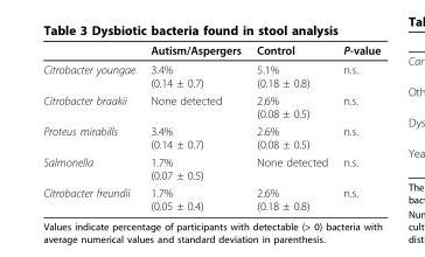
<table><thead><tr><td></td><td>Autism/Aspergers</td><td>Control</td><td>P-value</td></tr></thead><tbody><tr><td>Citrobacter youngae</td><td>3.4% (0.14 ± 0.7)</td><td>5.1% (0.18 ± 0.8)</td><td>n.s.</td></tr><tr><td>Citrobacter braakii</td><td>None detected</td><td>2.6% (0.08 ± 0.5)</td><td>n.s.</td></tr><tr><td>Proteus mirabills</td><td>3.4% (0.14 ± 0.7)</td><td>2.6% (0.08 ± 0.5)</td><td>n.s.</td></tr><tr><td>Salmonella</td><td>1.7% (0.07 ± 0.5)</td><td>None detected</td><td>n.s.</td></tr><tr><td>Citrobacter freundii</td><td>1.7% (0.05 ± 0.4)</td><td>2.6% (0.18 ± 0.8)</td><td>n.s.</td></tr></tbody></table>